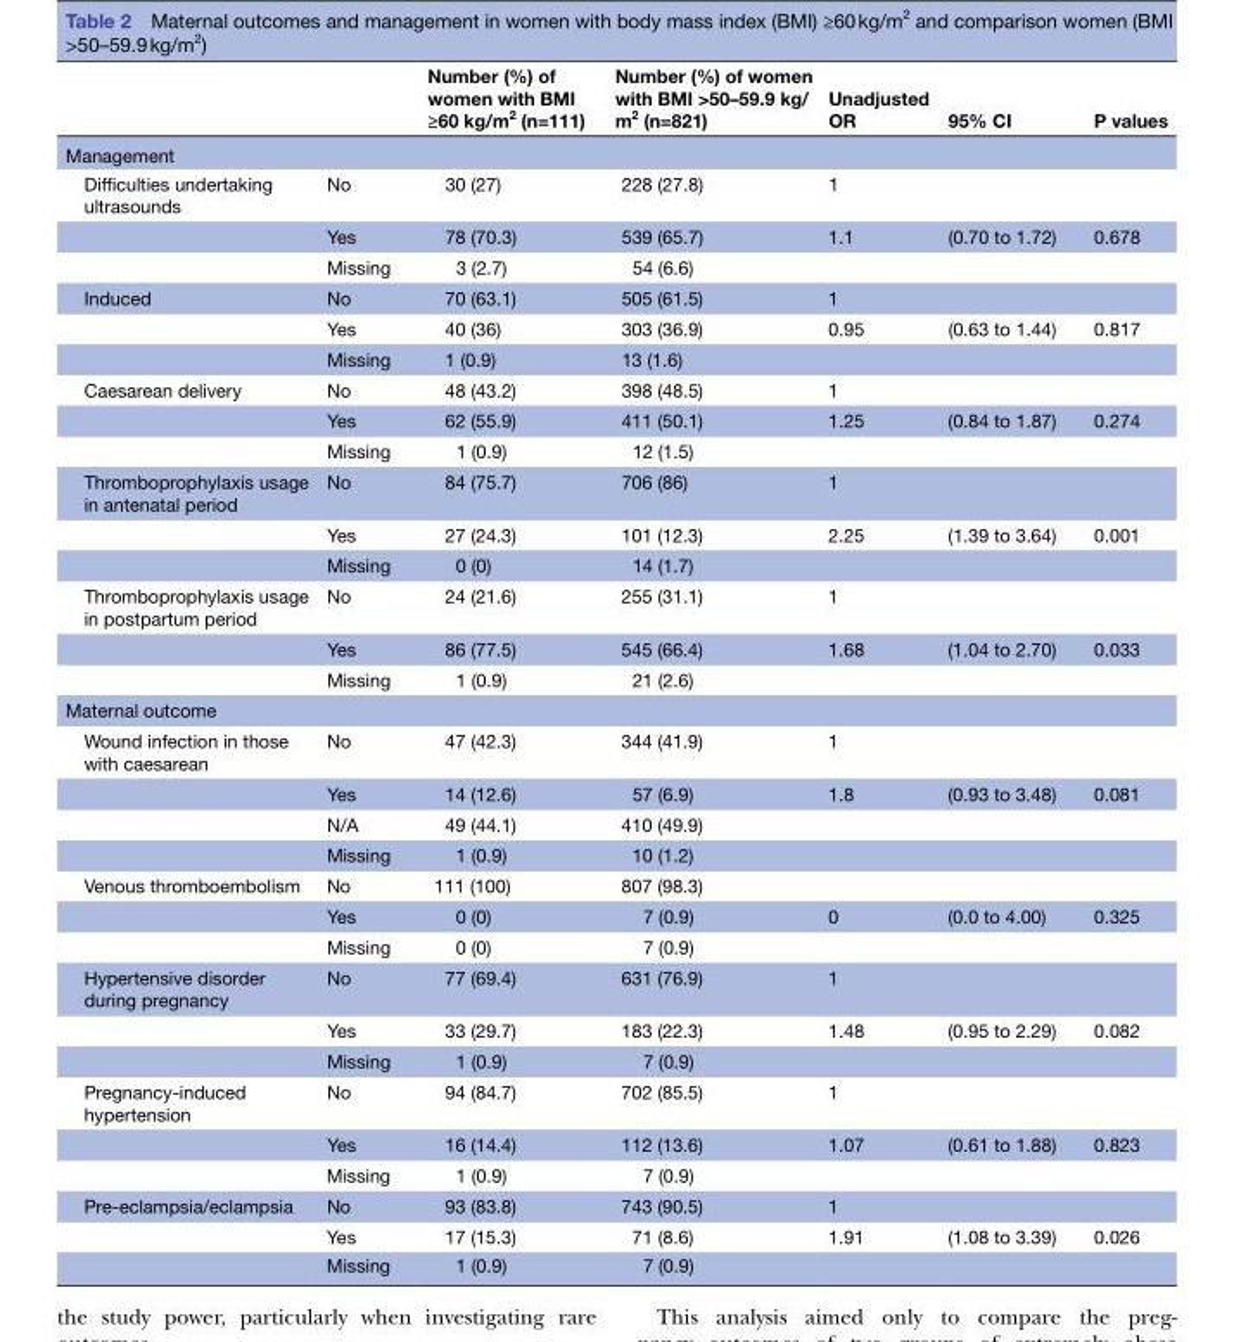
<table><thead><tr><td></td><td></td><td>Number (%) of women with BMI ≥60 kg/m<sup>2</sup> (n=111)</td><td>Number (%) of women with BMI &gt;50–59.9 kg/ m<sup>2</sup> (n=821)</td><td>Unadjusted OR</td><td>95% CI</td><td>P values</td></tr></thead><tbody><tr><td colspan="7">Management</td></tr><tr><td rowspan="3">Difficulties undertaking ultrasounds</td><td>No</td><td>30 (27)</td><td>228 (27.8)</td><td>1</td><td></td><td></td></tr><tr><td>Yes</td><td>78 (70.3)</td><td>539 (65.7)</td><td>1.1</td><td>(0.70 to 1.72)</td><td>0.678</td></tr><tr><td>Missing</td><td>3 (2.7)</td><td>54 (6.6)</td><td></td><td></td><td></td></tr><tr><td rowspan="3">Induced</td><td>No</td><td>70 (63.1)</td><td>505 (61.5)</td><td>1</td><td></td><td></td></tr><tr><td>Yes</td><td>40 (36)</td><td>303 (36.9)</td><td>0.95</td><td>(0.63 to 1.44)</td><td>0.817</td></tr><tr><td>Missing</td><td>1 (0.9)</td><td>13 (1.6)</td><td></td><td></td><td></td></tr><tr><td rowspan="3">Caesarean delivery</td><td>No</td><td>48 (43.2)</td><td>398 (48.5)</td><td>1</td><td></td><td></td></tr><tr><td>Yes</td><td>62 (55.9)</td><td>411 (50.1)</td><td>1.25</td><td>(0.84 to 1.87)</td><td>0.274</td></tr><tr><td>Missing</td><td>1 (0.9)</td><td>12 (1.5)</td><td></td><td></td><td></td></tr><tr><td rowspan="3">Thromboprophylaxis usage in antenatal period</td><td>No</td><td>84 (75.7)</td><td>706 (86)</td><td>1</td><td></td><td></td></tr><tr><td>Yes</td><td>27 (24.3)</td><td>101 (12.3)</td><td>2.25</td><td>(1.39 to 3.64)</td><td>0.001</td></tr><tr><td>Missing</td><td>0 (0)</td><td>14 (1.7)</td><td></td><td></td><td></td></tr><tr><td rowspan="3">Thromboprophylaxis usage in postpartum period</td><td>No</td><td>24 (21.6)</td><td>255 (31.1)</td><td>1</td><td></td><td></td></tr><tr><td>Yes</td><td>86 (77.5)</td><td>545 (66.4)</td><td>1.68</td><td>(1.04 to 2.70)</td><td>0.033</td></tr><tr><td>Missing</td><td>1 (0.9)</td><td>21 (2.6)</td><td></td><td></td><td></td></tr><tr><td colspan="7">Maternal outcome</td></tr><tr><td rowspan="4">Wound infection in those with caesarean</td><td>No</td><td>47 (42.3)</td><td>344 (41.9)</td><td>1</td><td></td><td></td></tr><tr><td>Yes</td><td>14 (12.6)</td><td>57 (6.9)</td><td>1.8</td><td>(0.93 to 3.48)</td><td>0.081</td></tr><tr><td>N/A</td><td>49 (44.1)</td><td>410 (49.9)</td><td></td><td></td><td></td></tr><tr><td>Missing</td><td>1 (0.9)</td><td>10 (1.2)</td><td></td><td></td><td></td></tr><tr><td rowspan="3">Venous thromboembolism</td><td>No</td><td>111 (100)</td><td>807 (98.3)</td><td></td><td></td><td></td></tr><tr><td>Yes</td><td>0 (0)</td><td>7 (0.9)</td><td>0</td><td>(0.0 to 4.00)</td><td>0.325</td></tr><tr><td>Missing</td><td>0 (0)</td><td>7 (0.9)</td><td></td><td></td><td></td></tr><tr><td rowspan="3">Hypertensive disorder during pregnancy</td><td>No</td><td>77 (69.4)</td><td>631 (76.9)</td><td>1</td><td></td><td></td></tr><tr><td>Yes</td><td>33 (29.7)</td><td>183 (22.3)</td><td>1.48</td><td>(0.95 to 2.29)</td><td>0.082</td></tr><tr><td>Missing</td><td>1 (0.9)</td><td>7 (0.9)</td><td></td><td></td><td></td></tr><tr><td rowspan="3">Pregnancy-induced hypertension</td><td>No</td><td>94 (84.7)</td><td>702 (85.5)</td><td>1</td><td></td><td></td></tr><tr><td>Yes</td><td>16 (14.4)</td><td>112 (13.6)</td><td>1.07</td><td>(0.61 to 1.88)</td><td>0.823</td></tr><tr><td>Missing</td><td>1 (0.9)</td><td>7 (0.9)</td><td></td><td></td><td></td></tr><tr><td rowspan="3">Pre-eclampsia/eclampsia</td><td>No</td><td>93 (83.8)</td><td>743 (90.5)</td><td>1</td><td></td><td></td></tr><tr><td>Yes</td><td>17 (15.3)</td><td>71 (8.6)</td><td>1.91</td><td>(1.08 to 3.39)</td><td>0.026</td></tr><tr><td>Missing</td><td>1 (0.9)</td><td>7 (0.9)</td><td></td><td></td><td></td></tr></tbody></table>